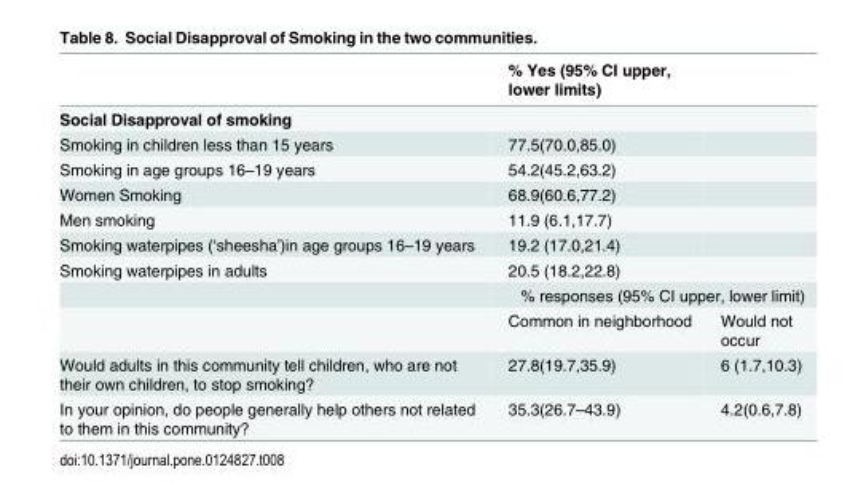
<table><thead><tr><td></td><td>% Yes (95% CI upper, lower limits)</td><td></td></tr></thead><tbody><tr><td colspan="3">Social Disapproval of smoking</td></tr><tr><td>Smoking in children less than 15 years</td><td>77.5(70.0,85.0)</td><td></td></tr><tr><td>Smoking in age groups 16–19 years</td><td>54.2(45.2,63.2)</td><td></td></tr><tr><td>Women Smoking</td><td>68.9(60.6,77.2)</td><td></td></tr><tr><td>Men smoking</td><td>11.9 (6.1,17.7)</td><td></td></tr><tr><td>Smoking waterpipes (‘sheesha’)in age groups 16–19 years</td><td>19.2 (17.0,21.4)</td><td></td></tr><tr><td rowspan="3">Smoking waterpipes in adults</td><td>20.5 (18.2,22.8)</td><td></td></tr><tr><td colspan="2">% responses (95% CI upper, lower limit)</td></tr><tr><td>Common in neighborhood</td><td>Would not occur</td></tr><tr><td>Would adults in this community tell children, who are not their own children, to stop smoking?</td><td>27.8(19.7,35.9)</td><td>6 (1.7,10.3)</td></tr><tr><td>In your opinion, do people generally help others not related to them in this community?</td><td>35.3(26.7–43.9)</td><td>4.2(0.6,7.8)</td></tr></tbody></table>